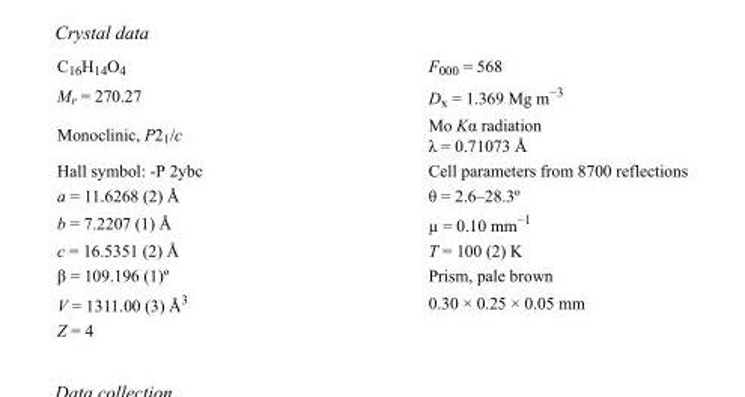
<table><tbody><tr><td>C<sub>16</sub>H<sub>14</sub>O<sub>4</sub></td><td>F<sub>000</sub> = 568</td></tr><tr><td>M<sub>r</sub> = 270.27</td><td>D<sub>x</sub> = 1.369 Mg m<sup>−3</sup></td></tr><tr><td>Monoclinic, P2<sub>1</sub>/c</td><td>Mo Kα radiation λ = 0.71073 Å</td></tr><tr><td>Hall symbol: -P 2ybc</td><td>Cell parameters from 8700 reflections</td></tr><tr><td>a = 11.6268 (2) Å</td><td>θ = 2.6–28.3º</td></tr><tr><td>b = 7.2207 (1) Å</td><td>µ = 0.10 mm<sup>−1</sup></td></tr><tr><td>c = 16.5351 (2) Å</td><td>T = 100 (2) K</td></tr><tr><td>β = 109.196 (1)º</td><td>Prism, pale brown</td></tr><tr><td>V = 1311.00 (3) Å<sup>3</sup></td><td>0.30 × 0.25 × 0.05 mm</td></tr><tr><td>Z = 4</td><td></td></tr></tbody></table>